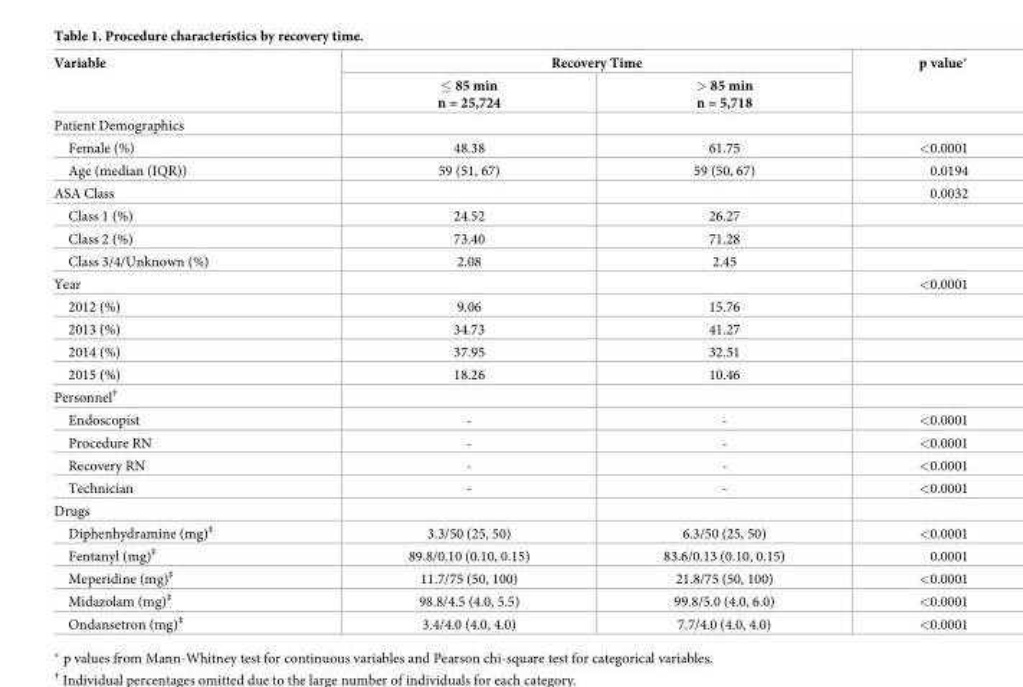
<table><thead><tr><td rowspan="2">Variable</td><td colspan="2">Recovery Time</td><td rowspan="2">p value*</td></tr><tr><td>≤ 85 min n = 25,724</td><td>&gt; 85 min n = 5,718</td></tr></thead><tbody><tr><td colspan="4">Patient Demographics</td></tr><tr><td>Female (%)</td><td>48.38</td><td>61.75</td><td>&lt;0.0001</td></tr><tr><td>Age (median (IQR))</td><td>59 (51, 67)</td><td>59 (50, 67)</td><td>0.0194</td></tr><tr><td>ASA Class</td><td></td><td></td><td>0.0032</td></tr><tr><td>Class 1 (%)</td><td>24.52</td><td>26.27</td><td></td></tr><tr><td>Class 2 (%)</td><td>73.40</td><td>71.28</td><td></td></tr><tr><td>Class 3/4/Unknown (%)</td><td>2.08</td><td>2.45</td><td></td></tr><tr><td>Year</td><td></td><td></td><td>&lt;0.0001</td></tr><tr><td>2012 (%)</td><td>9.06</td><td>15.76</td><td></td></tr><tr><td>2013 (%)</td><td>34.73</td><td>41.27</td><td></td></tr><tr><td>2014 (%)</td><td>37.95</td><td>32.51</td><td></td></tr><tr><td>2015 (%)</td><td>18.26</td><td>10.46</td><td></td></tr><tr><td colspan="4">Personnel<sup>†</sup></td></tr><tr><td>Endoscopist</td><td>-</td><td>-</td><td>&lt;0.0001</td></tr><tr><td>Procedure RN</td><td>-</td><td>-</td><td>&lt;0.0001</td></tr><tr><td>Recovery RN</td><td>-</td><td>-</td><td>&lt;0.0001</td></tr><tr><td>Technician</td><td>-</td><td>-</td><td>&lt;0.0001</td></tr><tr><td colspan="4">Drugs</td></tr><tr><td>Diphenhydramine (mg)<sup>‡</sup></td><td>3.3/50 (25, 50)</td><td>6.3/50 (25, 50)</td><td>&lt;0.0001</td></tr><tr><td>Fentanyl (mg)<sup>‡</sup></td><td>89.8/0.10 (0.10, 0.15)</td><td>83.6/0.13 (0.10, 0.15)</td><td>0.0001</td></tr><tr><td>Meperidine (mg)<sup>‡</sup></td><td>11.7/75 (50, 100)</td><td>21.8/75 (50, 100)</td><td>&lt;0.0001</td></tr><tr><td>Midazolam (mg)<sup>‡</sup></td><td>98.8/4.5 (4.0, 5.5)</td><td>99.8/5.0 (4.0, 6.0)</td><td>&lt;0.0001</td></tr><tr><td>Ondansetron (mg)<sup>‡</sup></td><td>3.4/4.0 (4.0, 4.0)</td><td>7.7/4.0 (4.0, 4.0)</td><td>&lt;0.0001</td></tr></tbody></table>